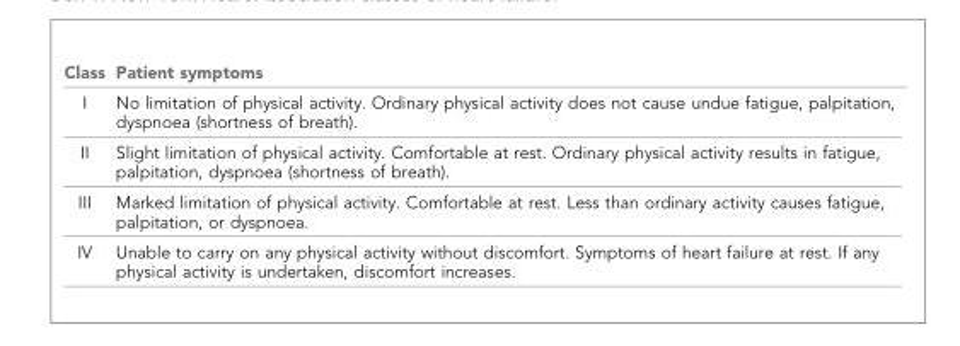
<table><thead><tr><td>Class</td><td>Patient symptoms</td></tr></thead><tbody><tr><td>I</td><td>No limitation of physical activity. Ordinary physical activity does not cause undue fatigue, palpitation, dyspnoea (shortness of breath).</td></tr><tr><td>II</td><td>Slight limitation of physical activity. Comfortable at rest. Ordinary physical activity results in fatigue, palpitation, dyspnoea (shortness of breath).</td></tr><tr><td>III</td><td>Marked limitation of physical activity. Comfortable at rest. Less than ordinary activity causes fatigue, palpitation, or dyspnoea.</td></tr><tr><td>IV</td><td>Unable to carry on any physical activity without discomfort. Symptoms of heart failure at rest. If any physical activity is undertaken, discomfort increases.</td></tr></tbody></table>